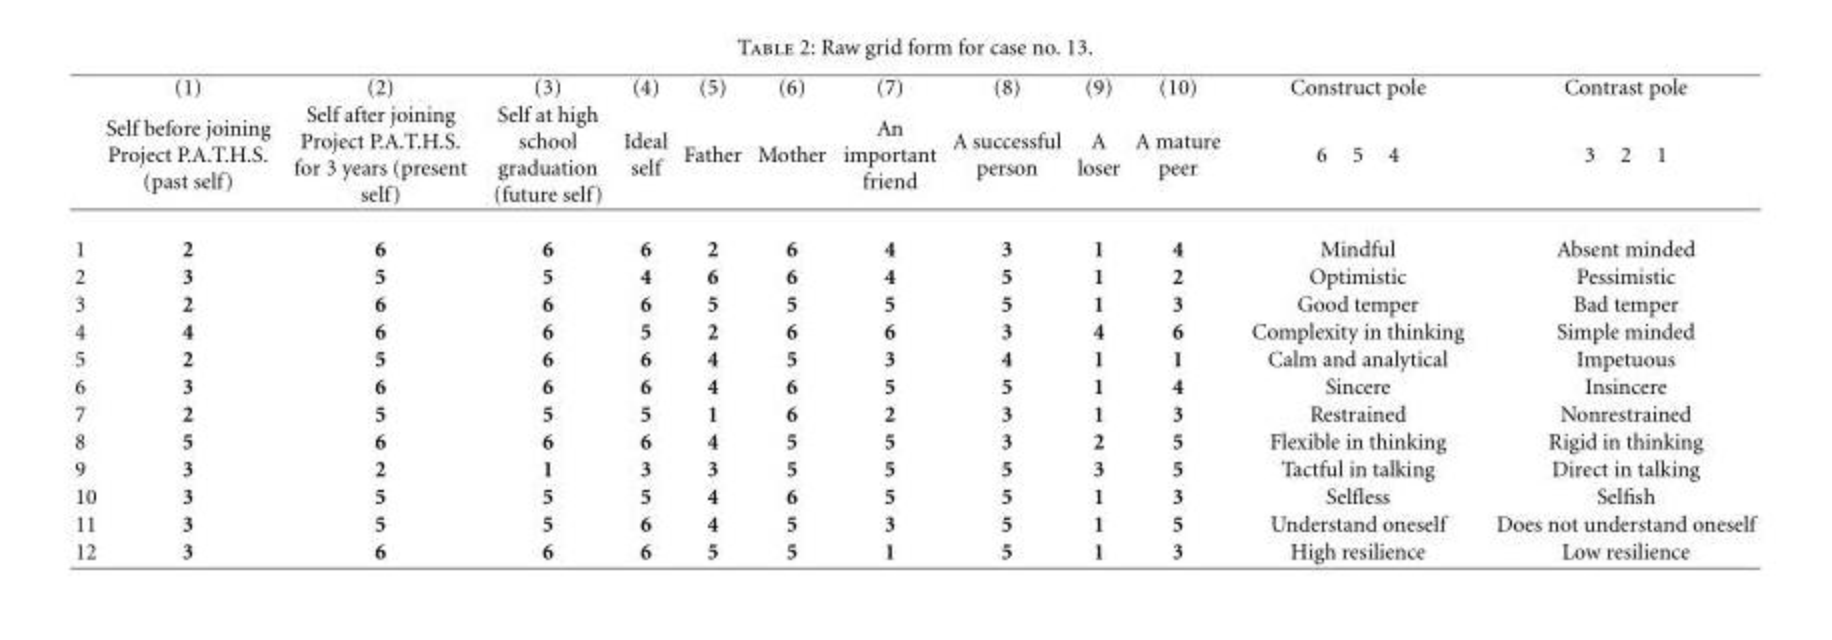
<table><thead><tr><td rowspan="2"></td><td rowspan="2">(1) Self before joining Project P.A.T.H.S. (past self)</td><td rowspan="2">(2) Self after joining Project P.A.T.H.S. for 3 years (present self)</td><td rowspan="2">(3) Self at high school graduation (future self)</td><td rowspan="2">(4) Ideal self</td><td rowspan="2">(5) Father</td><td rowspan="2">(6) Mother</td><td rowspan="2">(7) An important friend</td><td rowspan="2">(8) A successful person</td><td rowspan="2">(9) A loser</td><td rowspan="2">(10) A mature peer</td><td rowspan="2">Construct pole 6 5 4</td><td rowspan="2">Contrast pole 3 2 1</td></tr><tr></tr></thead><tbody><tr><td>1</td><td>2</td><td>6</td><td>6</td><td>6</td><td>2</td><td>6</td><td>4</td><td>3</td><td>1</td><td>4</td><td>Mindful</td><td>Absent minded</td></tr><tr><td>2</td><td>3</td><td>5</td><td>5</td><td>4</td><td>6</td><td>6</td><td>4</td><td>5</td><td>1</td><td>2</td><td>Optimistic</td><td>Pessimistic</td></tr><tr><td>3</td><td>2</td><td>6</td><td>6</td><td>6</td><td>5</td><td>5</td><td>5</td><td>5</td><td>1</td><td>3</td><td>Good temper</td><td>Bad temper</td></tr><tr><td>4</td><td>4</td><td>6</td><td>6</td><td>5</td><td>2</td><td>6</td><td>6</td><td>3</td><td>4</td><td>6</td><td>Complexity in thinking</td><td>Simple minded</td></tr><tr><td>5</td><td>2</td><td>5</td><td>6</td><td>6</td><td>4</td><td>5</td><td>3</td><td>4</td><td>1</td><td>1</td><td>Calm and analytical</td><td>Impetuous</td></tr><tr><td>6</td><td>3</td><td>6</td><td>6</td><td>6</td><td>4</td><td>6</td><td>5</td><td>5</td><td>1</td><td>4</td><td>Sincere</td><td>Insincere</td></tr><tr><td>7</td><td>2</td><td>5</td><td>5</td><td>5</td><td>1</td><td>6</td><td>2</td><td>3</td><td>1</td><td>3</td><td>Restrained</td><td>Nonrestrained</td></tr><tr><td>8</td><td>5</td><td>6</td><td>6</td><td>6</td><td>4</td><td>5</td><td>5</td><td>3</td><td>2</td><td>5</td><td>Flexible in thinking</td><td>Rigid in thinking</td></tr><tr><td>9</td><td>3</td><td>2</td><td>1</td><td>3</td><td>3</td><td>5</td><td>5</td><td>5</td><td>3</td><td>5</td><td>Tactful in talking</td><td>Direct in talking</td></tr><tr><td>10</td><td>3</td><td>5</td><td>5</td><td>5</td><td>4</td><td>6</td><td>5</td><td>5</td><td>1</td><td>3</td><td>Selfless</td><td>Selfish</td></tr><tr><td>11</td><td>3</td><td>5</td><td>5</td><td>6</td><td>4</td><td>5</td><td>3</td><td>5</td><td>1</td><td>5</td><td>Understand oneself</td><td>Does not understand oneself</td></tr><tr><td>12</td><td>3</td><td>6</td><td>6</td><td>6</td><td>5</td><td>5</td><td>1</td><td>5</td><td>1</td><td>3</td><td>High resilience</td><td>Low resilience</td></tr></tbody></table>